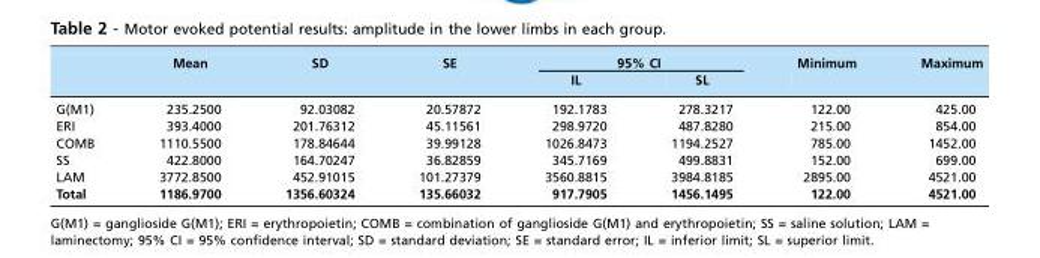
<table><thead><tr><td rowspan="2"></td><td rowspan="2">Mean</td><td rowspan="2">SD</td><td rowspan="2">SE</td><td colspan="2">95% CI</td><td rowspan="2">Minimum</td><td rowspan="2">Maximum</td></tr><tr><td>IL</td><td>SL</td></tr></thead><tbody><tr><td>G(M1)</td><td>235.2500</td><td>92.03082</td><td>20.57872</td><td>192.1783</td><td>278.3217</td><td>122.00</td><td>425.00</td></tr><tr><td>ERI</td><td>393.4000</td><td>201.76312</td><td>45.11561</td><td>298.9720</td><td>487.8280</td><td>215.00</td><td>854.00</td></tr><tr><td>COMB</td><td>1110.5500</td><td>178.84644</td><td>39.99128</td><td>1026.8473</td><td>1194.2527</td><td>785.00</td><td>1452.00</td></tr><tr><td>SS</td><td>422.8000</td><td>164.70247</td><td>36.82859</td><td>345.7169</td><td>499.8831</td><td>152.00</td><td>699.00</td></tr><tr><td>LAM</td><td>3772.8500</td><td>452.91015</td><td>101.27379</td><td>3560.8815</td><td>3984.8185</td><td>2895.00</td><td>4521.00</td></tr><tr><td>Total</td><td>1186.9700</td><td>1356.60324</td><td>135.66032</td><td>917.7905</td><td>1456.1495</td><td>122.00</td><td>4521.00</td></tr></tbody></table>